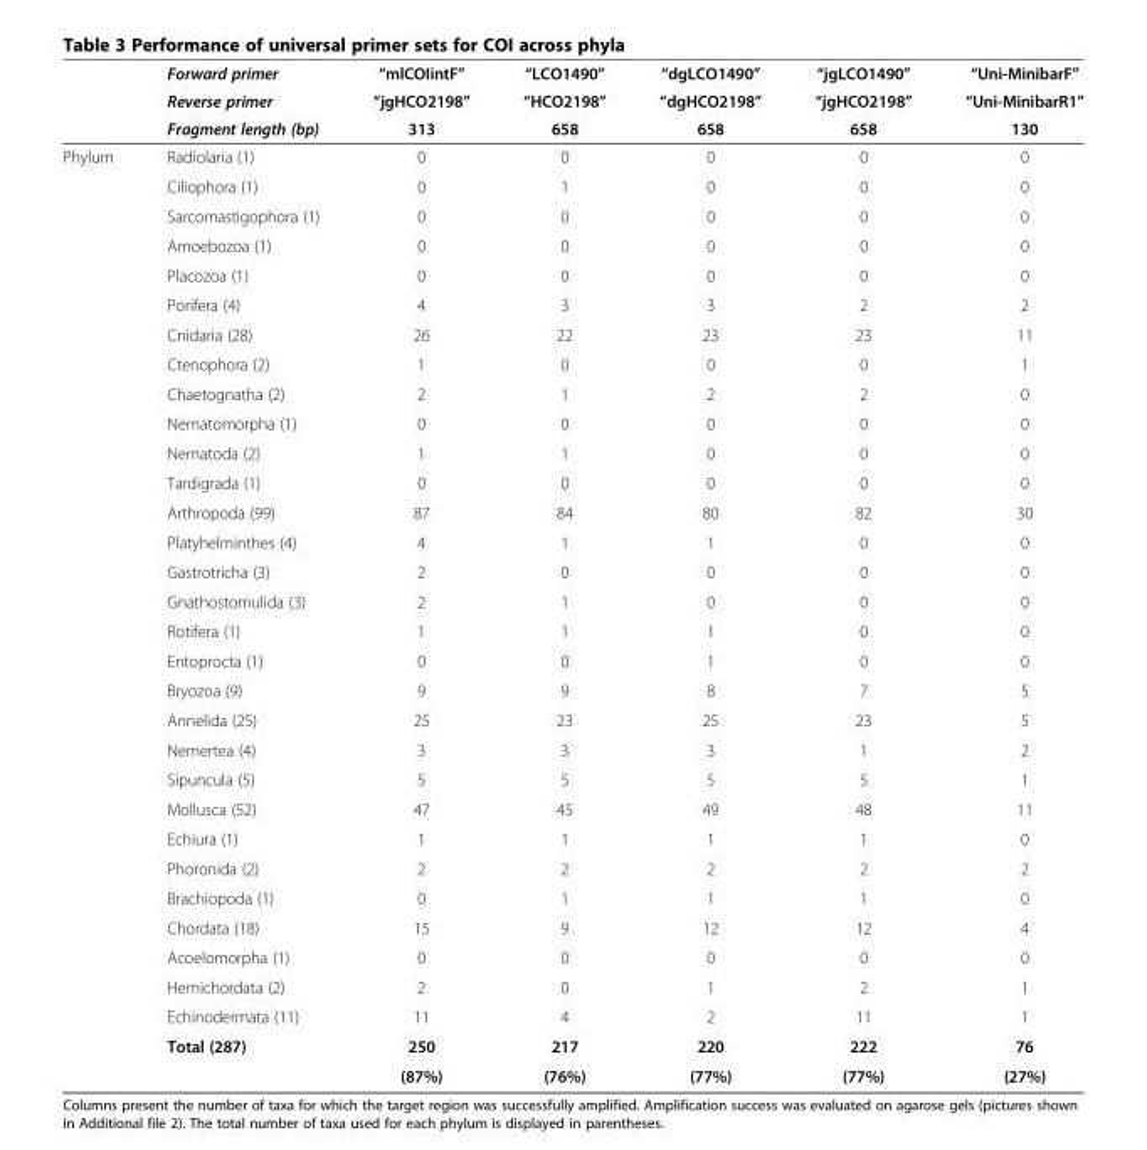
<table><thead><tr><td rowspan="3"></td><td rowspan="3">Forward primer Reverse primer Fragment length (bp)</td><td rowspan="3">“mlCOIintF” “jgHCO2198” 313</td><td rowspan="3">“LCO1490” “HCO2198” 658</td><td rowspan="3">“dgLCO1490” “dgHCO2198” 658</td><td rowspan="3">“jgLCO1490” “jgHCO2198” 658</td><td rowspan="3">“Uni-MinibarF” “Uni-MinibarR1” 130</td></tr><tr></tr><tr></tr></thead><tbody><tr><td rowspan="32">Phylum</td><td>Radiolaria (1)</td><td>0</td><td>0</td><td>0</td><td>0</td><td>0</td></tr><tr><td>Ciliophora (1)</td><td>0</td><td>1</td><td>0</td><td>0</td><td>0</td></tr><tr><td>Sarcomastigophora (1)</td><td>0</td><td>0</td><td>0</td><td>0</td><td>0</td></tr><tr><td>Amoebozoa (1)</td><td>0</td><td>0</td><td>0</td><td>0</td><td>0</td></tr><tr><td>Placozoa (1)</td><td>0</td><td>0</td><td>0</td><td>0</td><td>0</td></tr><tr><td>Porifera (4)</td><td>4</td><td>3</td><td>3</td><td>2</td><td>2</td></tr><tr><td>Cnidaria (28)</td><td>26</td><td>22</td><td>23</td><td>23</td><td>11</td></tr><tr><td>Ctenophora (2)</td><td>1</td><td>0</td><td>0</td><td>0</td><td>1</td></tr><tr><td>Chaetognatha (2)</td><td>2</td><td>1</td><td>2</td><td>2</td><td>0</td></tr><tr><td>Nematomorpha (1)</td><td>0</td><td>0</td><td>0</td><td>0</td><td>0</td></tr><tr><td>Nematoda (2)</td><td>1</td><td>1</td><td>0</td><td>0</td><td>0</td></tr><tr><td>Tardigrada (1)</td><td>0</td><td>0</td><td>0</td><td>0</td><td>0</td></tr><tr><td>Arthropoda (99)</td><td>87</td><td>84</td><td>80</td><td>82</td><td>30</td></tr><tr><td>Platyhelminthes (4)</td><td>4</td><td>1</td><td>1</td><td>0</td><td>0</td></tr><tr><td>Gastrotricha (3)</td><td>2</td><td>0</td><td>0</td><td>0</td><td>0</td></tr><tr><td>Gnathostomulida (3)</td><td>2</td><td>1</td><td>0</td><td>0</td><td>0</td></tr><tr><td>Rotifera (1)</td><td>1</td><td>1</td><td>1</td><td>0</td><td>0</td></tr><tr><td>Entoprocta (1)</td><td>0</td><td>0</td><td>1</td><td>0</td><td>0</td></tr><tr><td>Bryozoa (9)</td><td>9</td><td>9</td><td>8</td><td>7</td><td>5</td></tr><tr><td>Annelida (25)</td><td>25</td><td>23</td><td>25</td><td>23</td><td>5</td></tr><tr><td>Nemertea (4)</td><td>3</td><td>3</td><td>3</td><td>1</td><td>2</td></tr><tr><td>Sipuncula (5)</td><td>5</td><td>5</td><td>5</td><td>5</td><td>1</td></tr><tr><td>Mollusca (52)</td><td>47</td><td>45</td><td>49</td><td>48</td><td>11</td></tr><tr><td>Echiura (1)</td><td>1</td><td>1</td><td>1</td><td>1</td><td>0</td></tr><tr><td>Phoronida (2)</td><td>2</td><td>2</td><td>2</td><td>2</td><td>2</td></tr><tr><td>Brachiopoda (1)</td><td>0</td><td>1</td><td>1</td><td>1</td><td>0</td></tr><tr><td>Chordata (18)</td><td>15</td><td>9</td><td>12</td><td>12</td><td>4</td></tr><tr><td>Acoelomorpha (1)</td><td>0</td><td>0</td><td>0</td><td>0</td><td>0</td></tr><tr><td>Hemichordata (2)</td><td>2</td><td>0</td><td>1</td><td>2</td><td>1</td></tr><tr><td>Echinodermata (11)</td><td>11</td><td>4</td><td>2</td><td>11</td><td>1</td></tr><tr><td>Total (287)</td><td>250</td><td>217</td><td>220</td><td>222</td><td>76</td></tr><tr><td></td><td>(87%)</td><td>(76%)</td><td>(77%)</td><td>(77%)</td><td>(27%)</td></tr></tbody></table>